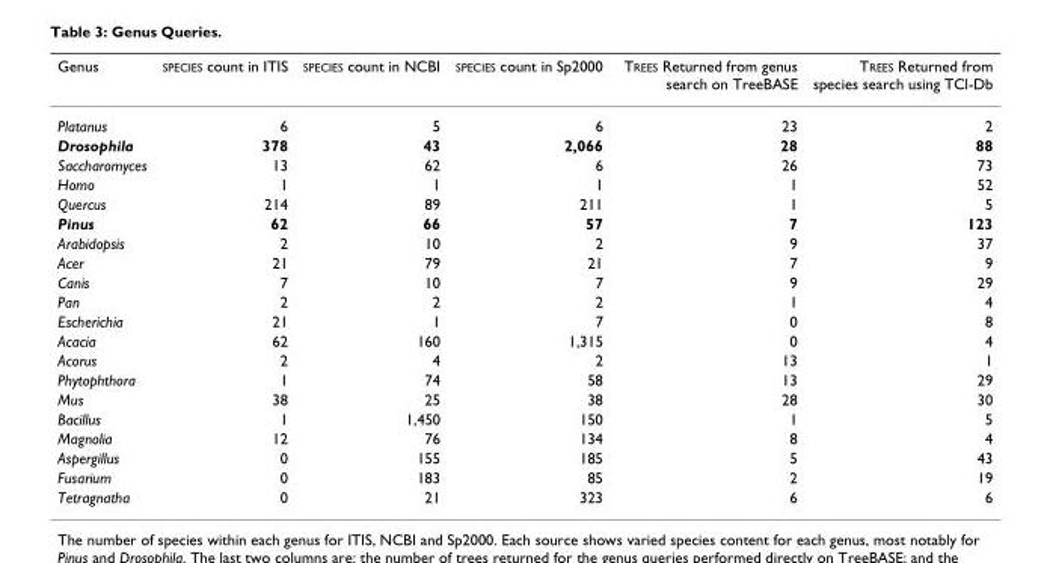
<table><thead><tr><td>Genus</td><td>SPECIES count in ITIS</td><td>SPECIES count in NCBI</td><td>SPECIES count in Sp2000</td><td>TREES Returned from genus search on TreeBASE</td><td>TREES Returned from species search using TCl-Db</td></tr></thead><tbody><tr><td>Platanus</td><td>6</td><td>5</td><td>6</td><td>23</td><td>2</td></tr><tr><td>Drosophila</td><td>378</td><td>43</td><td>2,066</td><td>28</td><td>88</td></tr><tr><td>Saccharomyces</td><td>13</td><td>62</td><td>6</td><td>26</td><td>73</td></tr><tr><td>Homo</td><td>1</td><td>1</td><td>1</td><td>1</td><td>52</td></tr><tr><td>Quercus</td><td>214</td><td>89</td><td>211</td><td>1</td><td>5</td></tr><tr><td>Pinus</td><td>62</td><td>66</td><td>57</td><td>7</td><td>123</td></tr><tr><td>Arabidopsis</td><td>2</td><td>10</td><td>2</td><td>9</td><td>37</td></tr><tr><td>Acer</td><td>21</td><td>79</td><td>21</td><td>7</td><td>9</td></tr><tr><td>Canis</td><td>7</td><td>10</td><td>7</td><td>9</td><td>29</td></tr><tr><td>Pan</td><td>2</td><td>2</td><td>2</td><td>1</td><td>4</td></tr><tr><td>Escherichia</td><td>21</td><td>1</td><td>7</td><td>0</td><td>8</td></tr><tr><td>Acacia</td><td>62</td><td>160</td><td>1,315</td><td>0</td><td>4</td></tr><tr><td>Acorus</td><td>2</td><td>4</td><td>2</td><td>13</td><td>1</td></tr><tr><td>Phytophthora</td><td>1</td><td>74</td><td>58</td><td>13</td><td>29</td></tr><tr><td>Mus</td><td>38</td><td>25</td><td>38</td><td>28</td><td>30</td></tr><tr><td>Bacillus</td><td>1</td><td>1,450</td><td>150</td><td>1</td><td>5</td></tr><tr><td>Magnolia</td><td>12</td><td>76</td><td>134</td><td>8</td><td>4</td></tr><tr><td>Aspergillus</td><td>0</td><td>155</td><td>185</td><td>5</td><td>43</td></tr><tr><td>Fusarium</td><td>0</td><td>183</td><td>85</td><td>2</td><td>19</td></tr><tr><td>Tetragnatha</td><td>0</td><td>21</td><td>323</td><td>6</td><td>6</td></tr></tbody></table>